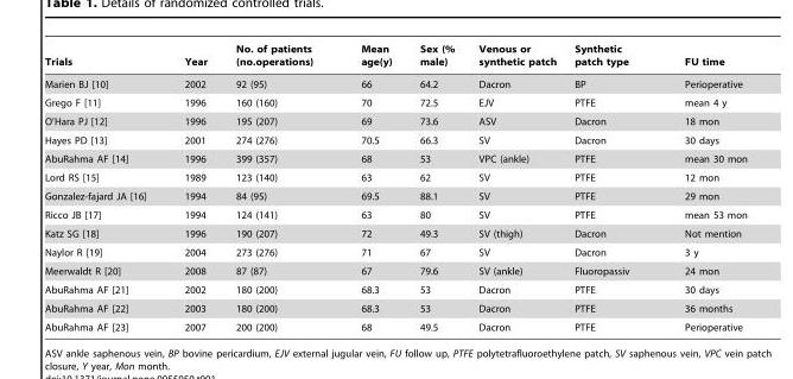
<table><thead><tr><td>Trials</td><td>Year</td><td>No. of patients (no.operations)</td><td>Mean age(y)</td><td>Sex (% male)</td><td>Venous or synthetic patch</td><td>Synthetic patch type</td><td>FU time</td></tr></thead><tbody><tr><td>Marien BJ [10]</td><td>2002</td><td>92 (95)</td><td>66</td><td>64.2</td><td>Dacron</td><td>BP</td><td>Perioperative</td></tr><tr><td>Grego F [11]</td><td>1996</td><td>160 (160)</td><td>70</td><td>72.5</td><td>EJV</td><td>PTFE</td><td>mean 4 y</td></tr><tr><td>O’Hara PJ [12]</td><td>1996</td><td>195 (207)</td><td>69</td><td>73.6</td><td>ASV</td><td>Dacron</td><td>18 mon</td></tr><tr><td>Hayes PD [13]</td><td>2001</td><td>274 (276)</td><td>70.5</td><td>66.3</td><td>SV</td><td>Dacron</td><td>30 days</td></tr><tr><td>AbuRahma AF [14]</td><td>1996</td><td>399 (357)</td><td>68</td><td>53</td><td>VPC (ankle)</td><td>PTFE</td><td>mean 30 mon</td></tr><tr><td>Lord RS [15]</td><td>1989</td><td>123 (140)</td><td>63</td><td>62</td><td>SV</td><td>PTFE</td><td>12 mon</td></tr><tr><td>Gonzalez-fajard JA [16]</td><td>1994</td><td>84 (95)</td><td>69.5</td><td>88.1</td><td>SV</td><td>PTFE</td><td>29 mon</td></tr><tr><td>Ricco JB [17]</td><td>1994</td><td>124 (141)</td><td>63</td><td>80</td><td>SV</td><td>PTFE</td><td>mean 53 mon</td></tr><tr><td>Katz SG [18]</td><td>1996</td><td>190 (207)</td><td>72</td><td>49.3</td><td>SV (thigh)</td><td>Dacron</td><td>Not mention</td></tr><tr><td>Naylor R [19]</td><td>2004</td><td>273 (276)</td><td>71</td><td>67</td><td>SV</td><td>Dacron</td><td>3 y</td></tr><tr><td>Meerwaldt R [20]</td><td>2008</td><td>87 (87)</td><td>67</td><td>79.6</td><td>SV (ankle)</td><td>Fluoropassiv</td><td>24 mon</td></tr><tr><td>AbuRahma AF [21]</td><td>2002</td><td>180 (200)</td><td>68.3</td><td>53</td><td>Dacron</td><td>PTFE</td><td>30 days</td></tr><tr><td>AbuRahma AF [22]</td><td>2003</td><td>180 (200)</td><td>68.3</td><td>53</td><td>Dacron</td><td>PTFE</td><td>36 months</td></tr><tr><td>AbuRahma AF [23]</td><td>2007</td><td>200 (200)</td><td>68</td><td>49.5</td><td>Dacron</td><td>PTFE</td><td>Perioperative</td></tr></tbody></table>